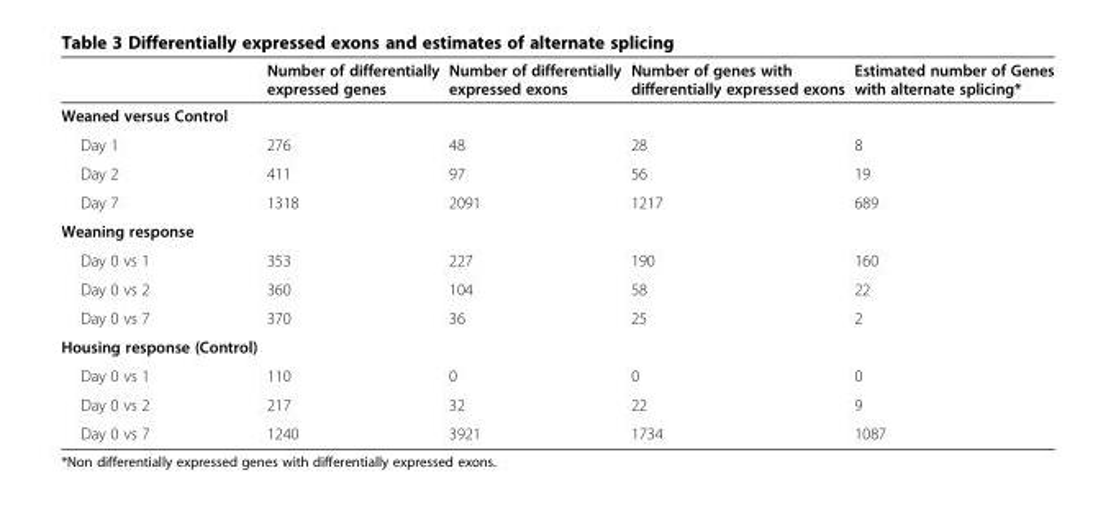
<table><thead><tr><td></td><td>Number of differentially expressed genes</td><td>Number of differentially expressed exons</td><td>Number of genes with differentially expressed exons</td><td>Estimated number of Genes with alternate splicing*</td></tr></thead><tbody><tr><td colspan="5">Weaned versus Control</td></tr><tr><td>Day 1</td><td>276</td><td>48</td><td>28</td><td>8</td></tr><tr><td>Day 2</td><td>411</td><td>97</td><td>56</td><td>19</td></tr><tr><td>Day 7</td><td>1318</td><td>2091</td><td>1217</td><td>689</td></tr><tr><td colspan="5">Weaning response</td></tr><tr><td>Day 0 vs 1</td><td>353</td><td>227</td><td>190</td><td>160</td></tr><tr><td>Day 0 vs 2</td><td>360</td><td>104</td><td>58</td><td>22</td></tr><tr><td>Day 0 vs 7</td><td>370</td><td>36</td><td>25</td><td>2</td></tr><tr><td colspan="5">Housing response (Control)</td></tr><tr><td>Day 0 vs 1</td><td>110</td><td>0</td><td>0</td><td>0</td></tr><tr><td>Day 0 vs 2</td><td>217</td><td>32</td><td>22</td><td>9</td></tr><tr><td>Day 0 vs 7</td><td>1240</td><td>3921</td><td>1734</td><td>1087</td></tr></tbody></table>